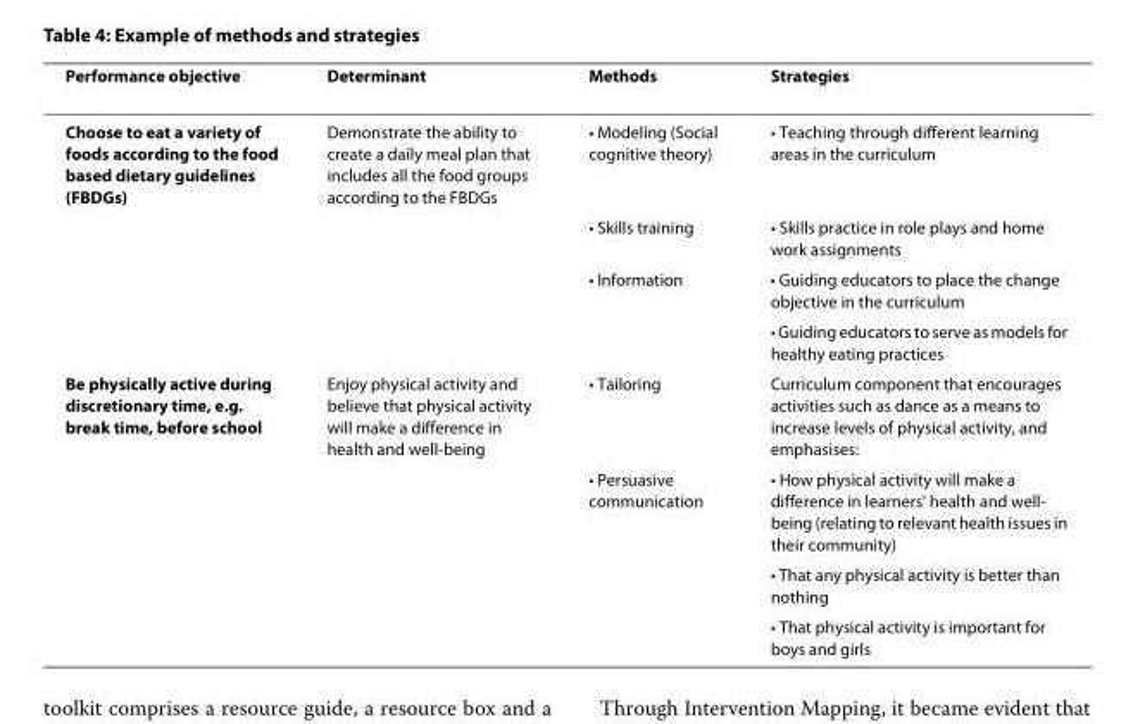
<table><thead><tr><td>Performance objective</td><td>Determinant</td><td>Methods</td><td>Strategies</td></tr></thead><tbody><tr><td rowspan="4">Choose to eat a variety of foods according to the food based dietary guidelines (FBDGs)</td><td>Demonstrate the ability to create a daily meal plan that includes all the food groups according to the FBDGs</td><td>• Modeling (Social cognitive theory)</td><td>• Teaching through different learning areas in the curriculum</td></tr><tr><td></td><td>• Skills training</td><td>• Skills practice in role plays and home work assignments</td></tr><tr><td></td><td>• Information</td><td>• Guiding educators to place the change objective in the curriculum</td></tr><tr><td></td><td></td><td>• Guiding educators to serve as models for healthy eating practices</td></tr><tr><td rowspan="4">Be physically active during discretionary time, e.g. break time, before school</td><td>Enjoy physical activity and believe that physical activity will make a difference in health and well-being</td><td>• Tailoring</td><td>Curriculum component that encourages activities such as dance as a means to increase levels of physical activity, and emphasises:</td></tr><tr><td></td><td>• Persuasive communication</td><td>• How physical activity will make a difference in learners&#x27; health and well- being (relating to relevant health issues in their community)</td></tr><tr><td></td><td></td><td>• That any physical activity is better than nothing</td></tr><tr><td></td><td></td><td>• That physical activity is important for boys and girls</td></tr></tbody></table>